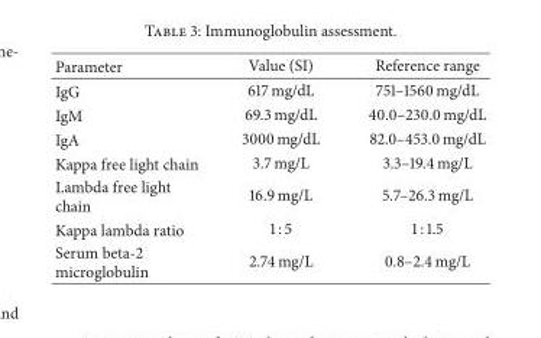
<table><thead><tr><td>Parameter</td><td>Value (SI)</td><td>Reference range</td></tr></thead><tbody><tr><td>IgG</td><td>617 mg/dL</td><td>751–1560 mg/dL</td></tr><tr><td>IgM</td><td>69.3 mg/dL</td><td>40.0–230.0 mg/dL</td></tr><tr><td>IgA</td><td>3000 mg/dL</td><td>82.0–453.0 mg/dL</td></tr><tr><td>Kappa free light chain</td><td>3.7 mg/L</td><td>3.3–19.4 mg/L</td></tr><tr><td>Lambda free light chain</td><td>16.9 mg/L</td><td>5.7–26.3 mg/L</td></tr><tr><td>Kappa lambda ratio</td><td>1 : 5</td><td>1 : 1.5</td></tr><tr><td>Serum beta-2 microglobulin</td><td>2.74 mg/L</td><td>0.8–2.4 mg/L</td></tr></tbody></table>